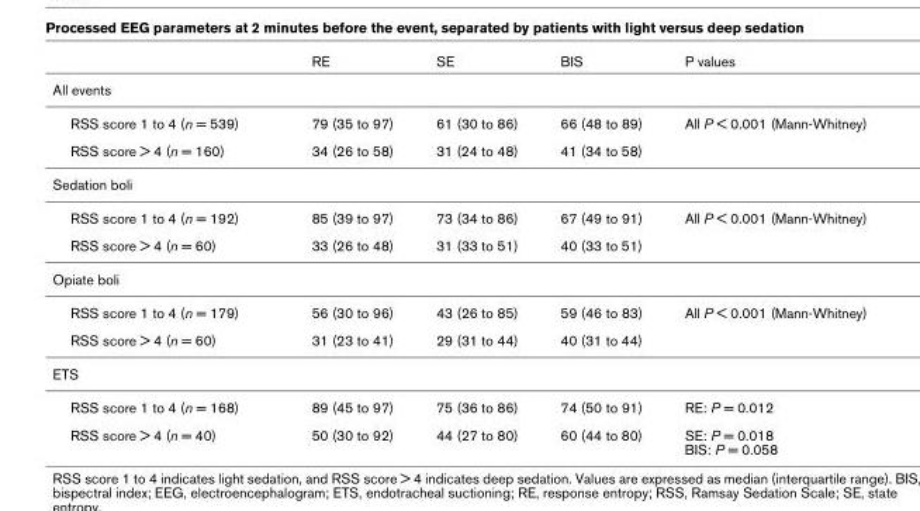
<table><thead><tr><td></td><td>RE</td><td>SE</td><td>BIS</td><td>P values</td></tr></thead><tbody><tr><td colspan="5">All events</td></tr><tr><td>RSS score 1 to 4 (n = 539)</td><td>79 (35 to 97)</td><td>61 (30 to 86)</td><td>66 (48 to 89)</td><td>All P &lt; 0.001 (Mann-Whitney)</td></tr><tr><td>RSS score &gt; 4 (n = 160)</td><td>34 (26 to 58)</td><td>31 (24 to 48)</td><td>41 (34 to 58)</td><td></td></tr><tr><td colspan="5">Sedation boli</td></tr><tr><td>RSS score 1 to 4 (n = 192)</td><td>85 (39 to 97)</td><td>73 (34 to 86)</td><td>67 (49 to 91)</td><td>All P &lt; 0.001 (Mann-Whitney)</td></tr><tr><td>RSS score &gt; 4 (n = 60)</td><td>33 (26 to 48)</td><td>31 (33 to 51)</td><td>40 (33 to 51)</td><td></td></tr><tr><td colspan="5">Opiate boli</td></tr><tr><td>RSS score 1 to 4 (n = 179)</td><td>56 (30 to 96)</td><td>43 (26 to 85)</td><td>59 (46 to 83)</td><td>All P &lt; 0.001 (Mann-Whitney)</td></tr><tr><td>RSS score &gt; 4 (n = 60)</td><td>31 (23 to 41)</td><td>29 (31 to 44)</td><td>40 (31 to 44)</td><td></td></tr><tr><td colspan="5">ETS</td></tr><tr><td>RSS score 1 to 4 (n = 168)</td><td>89 (45 to 97)</td><td>75 (36 to 86)</td><td>74 (50 to 91)</td><td>RE: P = 0.012</td></tr><tr><td>RSS score &gt; 4 (n = 40)</td><td>50 (30 to 92)</td><td>44 (27 to 80)</td><td>60 (44 to 80)</td><td>SE: P = 0.018 BIS: P = 0.058</td></tr></tbody></table>